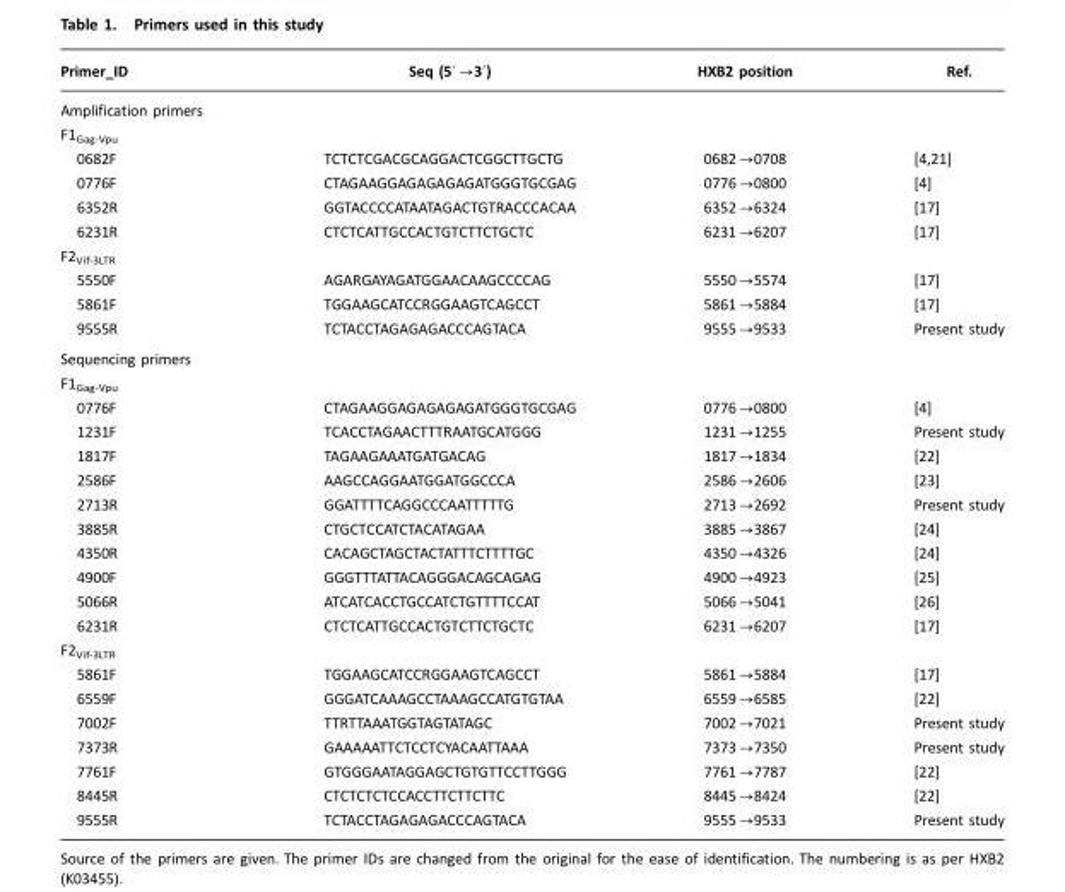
<table><thead><tr><td>Primer_ID</td><td>Seq (5′→3′)</td><td>HXB2 position</td><td>Ref.</td></tr></thead><tbody><tr><td colspan="4">Amplification primers</td></tr><tr><td colspan="4">F1<sub>Gag-Vpu</sub></td></tr><tr><td>0682F</td><td>TCTCTCGACGCAGGACTCGGCTTGCTG</td><td>0682→0708</td><td>[4,21]</td></tr><tr><td>0776F</td><td>CTAGAAGGAGAGAGAGATGGGTGCGAG</td><td>0776→0800</td><td>[4]</td></tr><tr><td>6352R</td><td>GGTACCCCATAATAGACTGTRACCCACAA</td><td>6352→6324</td><td>[17]</td></tr><tr><td>6231R</td><td>CTCTCATTGCCACTGTCTTCTGCTC</td><td>6231→6207</td><td>[17]</td></tr><tr><td colspan="4">F2<sub>Vif-3LTR</sub></td></tr><tr><td>5550F</td><td>AGARGAYAGATGGAACAAGCCCCAG</td><td>5550→5574</td><td>[17]</td></tr><tr><td>5861F</td><td>TGGAAGCATCCRGGAAGTCAGCCT</td><td>5861→5884</td><td>[17]</td></tr><tr><td>9555R</td><td>TCTACCTAGAGAGACCCAGTACA</td><td>9555→9533</td><td>Present study</td></tr><tr><td colspan="4">Sequencing primers</td></tr><tr><td colspan="4">F1<sub>Gag-Vpu</sub></td></tr><tr><td>0776F</td><td>CTAGAAGGAGAGAGAGATGGGTGCGAG</td><td>0776→0800</td><td>[4]</td></tr><tr><td>1231F</td><td>TCACCTAGAACTTTRAATGCATGGG</td><td>1231→1255</td><td>Present study</td></tr><tr><td>1817F</td><td>TAGAAGAAATGATGACAG</td><td>1817→1834</td><td>[22]</td></tr><tr><td>2586F</td><td>AAGCCAGGAATGGATGGCCCA</td><td>2586→2606</td><td>[23]</td></tr><tr><td>2713R</td><td>GGATTTTCAGGCCCAATTTTTG</td><td>2713→2692</td><td>Present study</td></tr><tr><td>3885R</td><td>CTGCTCCATCTACATAGAA</td><td>3885→3867</td><td>[24]</td></tr><tr><td>4350R</td><td>CACAGCTAGCTACTATTTCTTTTGC</td><td>4350→4326</td><td>[24]</td></tr><tr><td>4900F</td><td>GGGTTTATTACAGGGACAGCAGAG</td><td>4900→4923</td><td>[25]</td></tr><tr><td>5066R</td><td>ATCATCACCTGCCATCTGTTTTCCAT</td><td>5066→5041</td><td>[26]</td></tr><tr><td>6231R</td><td>CTCTCATTGCCACTGTCTTCTGCTC</td><td>6231→6207</td><td>[17]</td></tr><tr><td colspan="4">F2<sub>Vif-3LTR</sub></td></tr><tr><td>5861F</td><td>TGGAAGCATCCRGGAAGTCAGCCT</td><td>5861→5884</td><td>[17]</td></tr><tr><td>6559F</td><td>GGGATCAAAGCCTAAAGCCATGTGTAA</td><td>6559→6585</td><td>[22]</td></tr><tr><td>7002F</td><td>TTRTTAAATGGTAGTATAGC</td><td>7002→7021</td><td>Present study</td></tr><tr><td>7373R</td><td>GAAAAATTCTCCTCYACAATTAAA</td><td>7373→7350</td><td>Present study</td></tr><tr><td>7761F</td><td>GTGGGAATAGGAGCTGTGTTCCTTGGG</td><td>7761→7787</td><td>[22]</td></tr><tr><td>8445R</td><td>CTCTCTCTCCACCTTCTTCTTC</td><td>8445→8424</td><td>[22]</td></tr><tr><td>9555R</td><td>TCTACCTAGAGAGACCCAGTACA</td><td>9555→9533</td><td>Present study</td></tr></tbody></table>